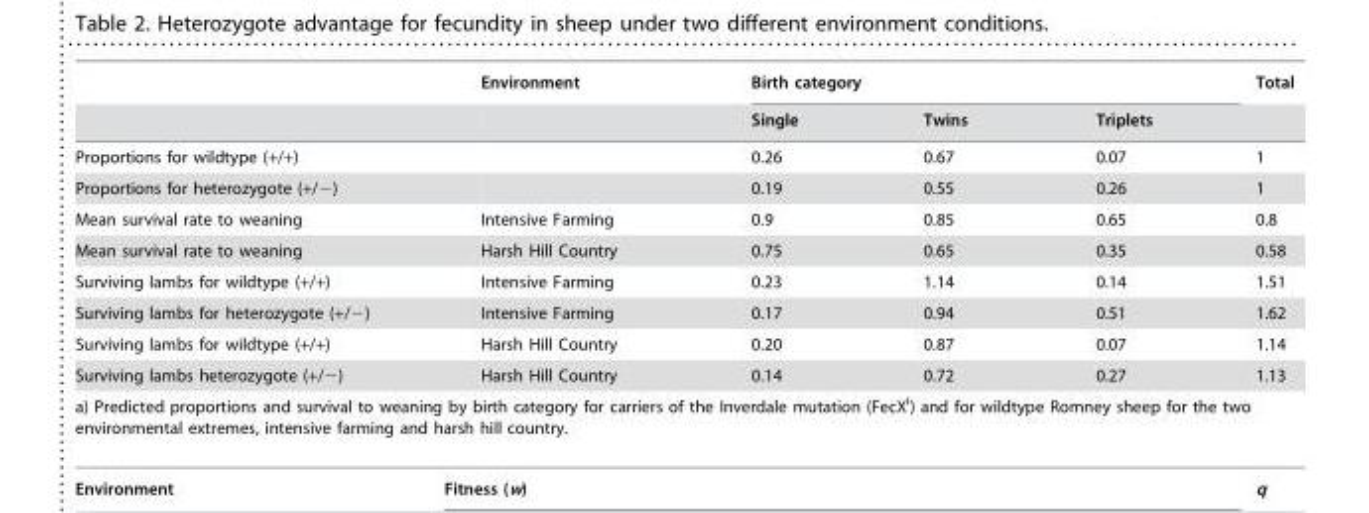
<table><thead><tr><td rowspan="2"></td><td rowspan="2">Environment</td><td colspan="3">Birth category</td><td rowspan="2">Total</td></tr><tr><td>Single</td><td>Twins</td><td>Triplets</td></tr></thead><tbody><tr><td>Proportions for wildtype (+/+)</td><td></td><td>0.26</td><td>0.67</td><td>0.07</td><td>1</td></tr><tr><td>Proportions for heterozygote (+/−)</td><td></td><td>0.19</td><td>0.55</td><td>0.26</td><td>1</td></tr><tr><td>Mean survival rate to weaning</td><td>Intensive Farming</td><td>0.9</td><td>0.85</td><td>0.65</td><td>0.8</td></tr><tr><td>Mean survival rate to weaning</td><td>Harsh Hill Country</td><td>0.75</td><td>0.65</td><td>0.35</td><td>0.58</td></tr><tr><td>Surviving lambs for wildtype (+/+)</td><td>Intensive Farming</td><td>0.23</td><td>1.14</td><td>0.14</td><td>1.51</td></tr><tr><td>Surviving lambs for heterozygote (+/−)</td><td>Intensive Farming</td><td>0.17</td><td>0.94</td><td>0.51</td><td>1.62</td></tr><tr><td>Surviving lambs for wildtype (+/+)</td><td>Harsh Hill Country</td><td>0.20</td><td>0.87</td><td>0.07</td><td>1.14</td></tr><tr><td>Surviving lambs heterozygote (+/−)</td><td>Harsh Hill Country</td><td>0.14</td><td>0.72</td><td>0.27</td><td>1.13</td></tr><tr><td colspan="6">a) Predicted proportions and survival to weaning by birth category for carriers of the Inverdale mutation (FecX<sup>I</sup>) and for wildtype Romney sheep for the two environmental extremes, intensive farming and harsh hill country.</td></tr></tbody></table>